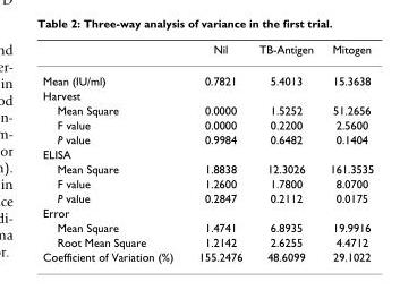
<table><thead><tr><td></td><td>Nil</td><td>TB-Antigen</td><td>Mitogen</td></tr></thead><tbody><tr><td>Mean (IU/ml)</td><td>0.7821</td><td>5.4013</td><td>15.3638</td></tr><tr><td colspan="4">Harvest</td></tr><tr><td>Mean Square</td><td>0.0000</td><td>1.5252</td><td>51.2656</td></tr><tr><td>F value</td><td>0.0000</td><td>0.2200</td><td>2.5600</td></tr><tr><td>P value</td><td>0.9984</td><td>0.6482</td><td>0.1404</td></tr><tr><td colspan="4">ELISA</td></tr><tr><td>Mean Square</td><td>1.8838</td><td>12.3026</td><td>161.3535</td></tr><tr><td>F value</td><td>1.2600</td><td>1.7800</td><td>8.0700</td></tr><tr><td>P value</td><td>0.2847</td><td>0.2112</td><td>0.0175</td></tr><tr><td colspan="4">Error</td></tr><tr><td>Mean Square</td><td>1.4741</td><td>6.8935</td><td>19.9916</td></tr><tr><td>Root Mean Square</td><td>1.2142</td><td>2.6255</td><td>4.4712</td></tr><tr><td>Coefficient of Variation (%)</td><td>155.2476</td><td>48.6099</td><td>29.1022</td></tr></tbody></table>